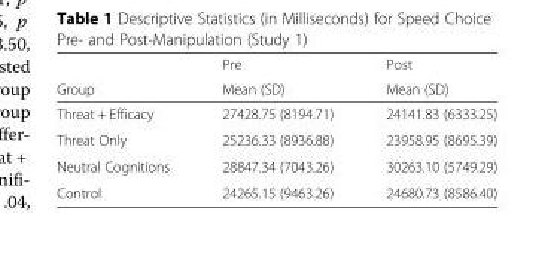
<table><thead><tr><td rowspan="2">Group</td><td rowspan="2">Pre Mean (SD)</td><td rowspan="2">Post Mean (SD)</td></tr><tr></tr></thead><tbody><tr><td>Threat + Efficacy</td><td>27428.75 (8194.71)</td><td>24141.83 (6333.25)</td></tr><tr><td>Threat Only</td><td>25236.33 (8936.88)</td><td>23958.95 (8695.39)</td></tr><tr><td>Neutral Cognitions</td><td>28847.34 (7043.26)</td><td>30263.10 (5749.29)</td></tr><tr><td>Control</td><td>24265.15 (9463.26)</td><td>24680.73 (8586.40)</td></tr></tbody></table>